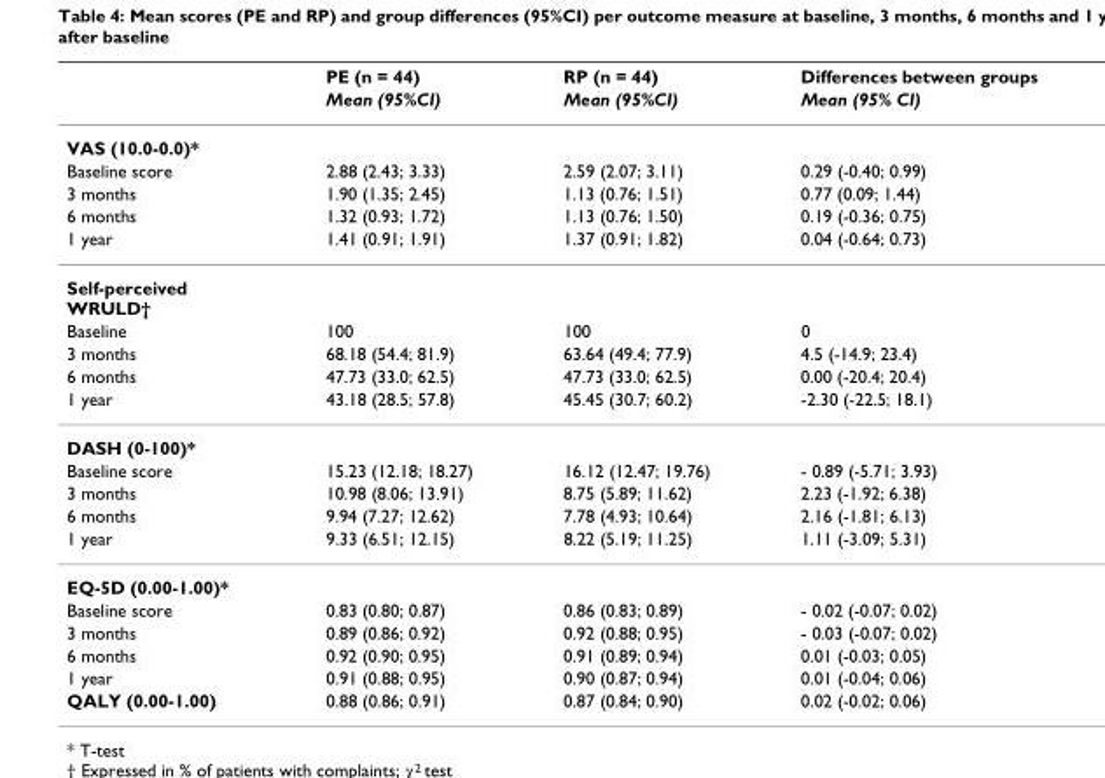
<table><thead><tr><td rowspan="2"></td><td rowspan="2">PE (n = 44) Mean (95%CI)</td><td rowspan="2">RP (n = 44) Mean (95%CI)</td><td rowspan="2">Differences between groups Mean (95% CI)</td></tr><tr></tr></thead><tbody><tr><td colspan="4">VAS (10.0-0.0)*</td></tr><tr><td>Baseline score</td><td>2.88 (2.43; 3.33)</td><td>2.59 (2.07; 3.11)</td><td>0.29 (-0.40; 0.99)</td></tr><tr><td>3 months</td><td>1.90 (1.35; 2.45)</td><td>1.13 (0.76; 1.51)</td><td>0.77 (0.09; 1.44)</td></tr><tr><td>6 months</td><td>1.32 (0.93; 1.72)</td><td>1.13 (0.76; 1.50)</td><td>0.19 (-0.36; 0.75)</td></tr><tr><td>1 year</td><td>1.41 (0.91; 1.91)</td><td>1.37 (0.91; 1.82)</td><td>0.04 (-0.64; 0.73)</td></tr><tr><td colspan="4">Self-perceived WRULD†</td></tr><tr><td>Baseline</td><td>100</td><td>100</td><td>0</td></tr><tr><td>3 months</td><td>68.18 (54.4; 81.9)</td><td>63.64 (49.4; 77.9)</td><td>4.5 (-14.9; 23.4)</td></tr><tr><td>6 months</td><td>47.73 (33.0; 62.5)</td><td>47.73 (33.0; 62.5)</td><td>0.00 (-20.4; 20.4)</td></tr><tr><td>1 year</td><td>43.18 (28.5; 57.8)</td><td>45.45 (30.7; 60.2)</td><td>-2.30 (-22.5; 18.1)</td></tr><tr><td colspan="4">DASH (0-100)*</td></tr><tr><td>Baseline score</td><td>15.23 (12.18; 18.27)</td><td>16.12 (12.47; 19.76)</td><td>- 0.89 (-5.71; 3.93)</td></tr><tr><td>3 months</td><td>10.98 (8.06; 13.91)</td><td>8.75 (5.89; 11.62)</td><td>2.23 (-1.92; 6.38)</td></tr><tr><td>6 months</td><td>9.94 (7.27; 12.62)</td><td>7.78 (4.93; 10.64)</td><td>2.16 (-1.81; 6.13)</td></tr><tr><td>1 year</td><td>9.33 (6.51; 12.15)</td><td>8.22 (5.19; 11.25)</td><td>1.11 (-3.09; 5.31)</td></tr><tr><td colspan="4">EQ-5D (0.00-1.00)*</td></tr><tr><td>Baseline score</td><td>0.83 (0.80; 0.87)</td><td>0.86 (0.83; 0.89)</td><td>- 0.02 (-0.07; 0.02)</td></tr><tr><td>3 months</td><td>0.89 (0.86; 0.92)</td><td>0.92 (0.88; 0.95)</td><td>- 0.03 (-0.07; 0.02)</td></tr><tr><td>6 months</td><td>0.92 (0.90; 0.95)</td><td>0.91 (0.89; 0.94)</td><td>0.01 (-0.03; 0.05)</td></tr><tr><td>1 year</td><td>0.91 (0.88; 0.95)</td><td>0.90 (0.87; 0.94)</td><td>0.01 (-0.04; 0.06)</td></tr><tr><td>QALY (0.00-1.00)</td><td>0.88 (0.86; 0.91)</td><td>0.87 (0.84; 0.90)</td><td>0.02 (-0.02; 0.06)</td></tr></tbody></table>